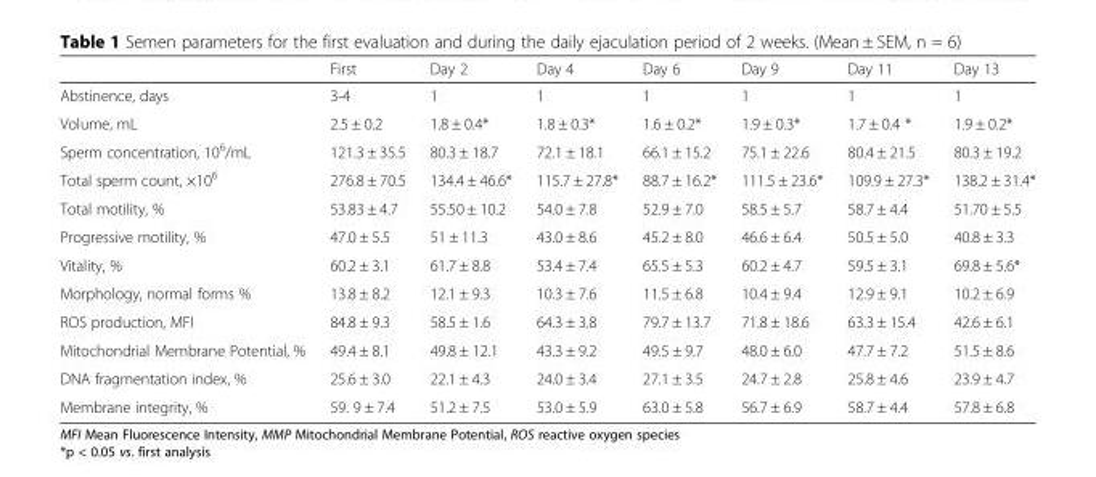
<table><thead><tr><td></td><td>First</td><td>Day 2</td><td>Day 4</td><td>Day 6</td><td>Day 9</td><td>Day 11</td><td>Day 13</td></tr></thead><tbody><tr><td>Abstinence, days</td><td>3-4</td><td>1</td><td>1</td><td>1</td><td>1</td><td>1</td><td>1</td></tr><tr><td>Volume, mL</td><td>2.5 ± 0.2</td><td>1.8 ± 0.4*</td><td>1.8 ± 0.3*</td><td>1.6 ± 0.2*</td><td>1.9 ± 0.3*</td><td>1.7 ± 0.4 *</td><td>1.9 ± 0.2*</td></tr><tr><td>Sperm concentration, 10<sup>6</sup>/mL</td><td>121.3 ± 35.5</td><td>80.3 ± 18.7</td><td>72.1 ± 18.1</td><td>66.1 ± 15.2</td><td>75.1 ± 22.6</td><td>80.4 ± 21.5</td><td>80.3 ± 19.2</td></tr><tr><td>Total sperm count, ×10<sup>6</sup></td><td>276.8 ± 70.5</td><td>134.4 ± 46.6*</td><td>115.7 ± 27.8*</td><td>88.7 ± 16.2*</td><td>111.5 ± 23.6*</td><td>109.9 ± 27.3*</td><td>138.2 ± 31.4*</td></tr><tr><td>Total motility, %</td><td>53.83 ± 4.7</td><td>55.50 ± 10.2</td><td>54.0 ± 7.8</td><td>52.9 ± 7.0</td><td>58.5 ± 5.7</td><td>58.7 ± 4.4</td><td>51.70 ± 5.5</td></tr><tr><td>Progressive motility, %</td><td>47.0 ± 5.5</td><td>51 ± 11.3</td><td>43.0 ± 8.6</td><td>45.2 ± 8.0</td><td>46.6 ± 6.4</td><td>50.5 ± 5.0</td><td>40.8 ± 3.3</td></tr><tr><td>Vitality, %</td><td>60.2 ± 3.1</td><td>61.7 ± 8.8</td><td>53.4 ± 7.4</td><td>65.5 ± 5.3</td><td>60.2 ± 4.7</td><td>59.5 ± 3.1</td><td>69.8 ± 5.6*</td></tr><tr><td>Morphology, normal forms %</td><td>13.8 ± 8.2</td><td>12.1 ± 9.3</td><td>10.3 ± 7.6</td><td>11.5 ± 6.8</td><td>10.4 ± 9.4</td><td>12.9 ± 9.1</td><td>10.2 ± 6.9</td></tr><tr><td>ROS production, MFI</td><td>84.8 ± 9.3</td><td>58.5 ± 1.6</td><td>64.3 ± 3.8</td><td>79.7 ± 13.7</td><td>71.8 ± 18.6</td><td>63.3 ± 15.4</td><td>42.6 ± 6.1</td></tr><tr><td>Mitochondrial Membrane Potential, %</td><td>49.4 ± 8.1</td><td>49.8 ± 12.1</td><td>43.3 ± 9.2</td><td>49.5 ± 9.7</td><td>48.0 ± 6.0</td><td>47.7 ± 7.2</td><td>51.5 ± 8.6</td></tr><tr><td>DNA fragmentation index, %</td><td>25.6 ± 3.0</td><td>22.1 ± 4.3</td><td>24.0 ± 3.4</td><td>27.1 ± 3.5</td><td>24.7 ± 2.8</td><td>25.8 ± 4.6</td><td>23.9 ± 4.7</td></tr><tr><td>Membrane integrity, %</td><td>59. 9 ± 7.4</td><td>51.2 ± 7.5</td><td>53.0 ± 5.9</td><td>63.0 ± 5.8</td><td>56.7 ± 6.9</td><td>58.7 ± 4.4</td><td>57.8 ± 6.8</td></tr></tbody></table>